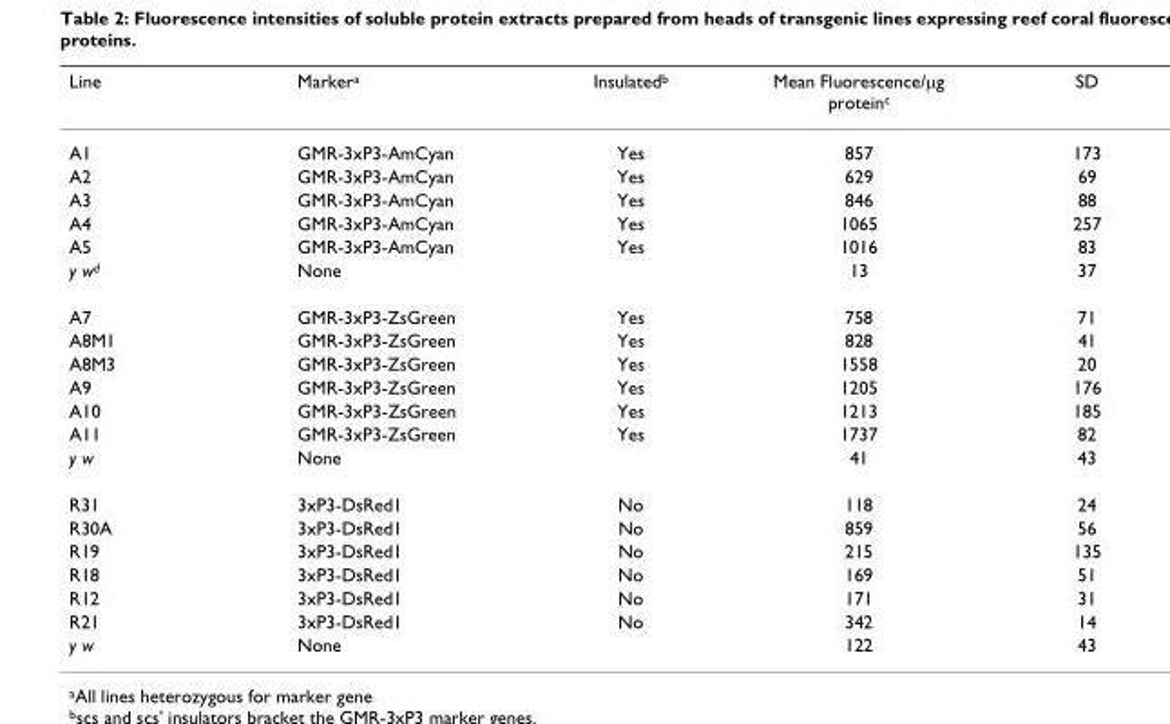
<table><thead><tr><td>Line</td><td>Markera</td><td>Insulatedb</td><td>Mean Fluorescence/µg proteinc</td><td>SD</td></tr></thead><tbody><tr><td>A1</td><td>GMR-3xP3-AmCyan</td><td>Yes</td><td>857</td><td>173</td></tr><tr><td>A2</td><td>GMR-3xP3-AmCyan</td><td>Yes</td><td>629</td><td>69</td></tr><tr><td>A3</td><td>GMR-3xP3-AmCyan</td><td>Yes</td><td>846</td><td>88</td></tr><tr><td>A4</td><td>GMR-3xP3-AmCyan</td><td>Yes</td><td>1065</td><td>257</td></tr><tr><td>A5</td><td>GMR-3xP3-AmCyan</td><td>Yes</td><td>1016</td><td>83</td></tr><tr><td>y wd</td><td>None</td><td></td><td>13</td><td>37</td></tr><tr><td>A7</td><td>GMR-3xP3-ZsGreen</td><td>Yes</td><td>758</td><td>71</td></tr><tr><td>A8M1</td><td>GMR-3xP3-ZsGreen</td><td>Yes</td><td>828</td><td>41</td></tr><tr><td>A8M3</td><td>GMR-3xP3-ZsGreen</td><td>Yes</td><td>1558</td><td>20</td></tr><tr><td>A9</td><td>GMR-3xP3-ZsGreen</td><td>Yes</td><td>1205</td><td>176</td></tr><tr><td>A10</td><td>GMR-3xP3-ZsGreen</td><td>Yes</td><td>1213</td><td>185</td></tr><tr><td>A11</td><td>GMR-3xP3-ZsGreen</td><td>Yes</td><td>1737</td><td>82</td></tr><tr><td>y w</td><td>None</td><td></td><td>41</td><td>43</td></tr><tr><td>R31</td><td>3xP3-DsRed1</td><td>No</td><td>118</td><td>24</td></tr><tr><td>R30A</td><td>3xP3-DsRed1</td><td>No</td><td>859</td><td>56</td></tr><tr><td>R19</td><td>3xP3-DsRed1</td><td>No</td><td>215</td><td>135</td></tr><tr><td>R18</td><td>3xP3-DsRed1</td><td>No</td><td>169</td><td>51</td></tr><tr><td>R12</td><td>3xP3-DsRed1</td><td>No</td><td>171</td><td>31</td></tr><tr><td>R21</td><td>3xP3-DsRed1</td><td>No</td><td>342</td><td>14</td></tr><tr><td>y w</td><td>None</td><td></td><td>122</td><td>43</td></tr></tbody></table>